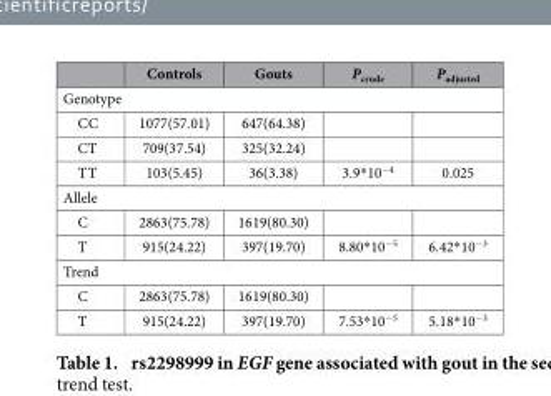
<table><thead><tr><td></td><td>Controls</td><td>Gouts</td><td>Pcrude</td><td>Padjusted</td></tr></thead><tbody><tr><td colspan="5">Genotype</td></tr><tr><td>CC</td><td>1077(57.01)</td><td>647(64.38)</td><td></td><td></td></tr><tr><td>CT</td><td>709(37.54)</td><td>325(32.24)</td><td></td><td></td></tr><tr><td>TT</td><td>103(5.45)</td><td>36(3.38)</td><td>3.9* 10<sup>−4</sup></td><td>0.025</td></tr><tr><td colspan="5">Allele</td></tr><tr><td>C</td><td>2863(75.78)</td><td>1619(80.30)</td><td></td><td></td></tr><tr><td>T</td><td>915(24.22)</td><td>397(19.70)</td><td>8.80* 10<sup>−5</sup></td><td>6.42* 10<sup>−3</sup></td></tr><tr><td colspan="5">Trend</td></tr><tr><td>C</td><td>2863(75.78)</td><td>1619(80.30)</td><td></td><td></td></tr><tr><td>T</td><td>915(24.22)</td><td>397(19.70)</td><td>7.53* 10<sup>−5</sup></td><td>5.18* 10<sup>−3</sup></td></tr></tbody></table>